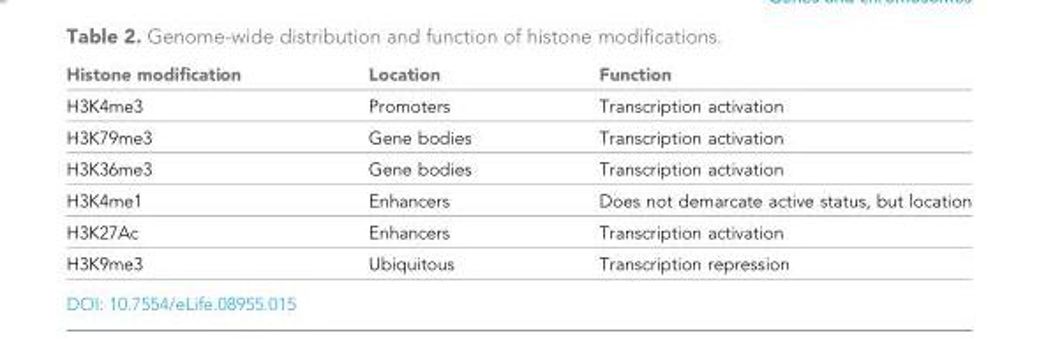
<table><thead><tr><td>Histone modification</td><td>Location</td><td>Function</td></tr></thead><tbody><tr><td>H3K4me3</td><td>Promoters</td><td>Transcription activation</td></tr><tr><td>H3K79me3</td><td>Gene bodies</td><td>Transcription activation</td></tr><tr><td>H3K36me3</td><td>Gene bodies</td><td>Transcription activation</td></tr><tr><td>H3K4me1</td><td>Enhancers</td><td>Does not demarcate active status, but location</td></tr><tr><td>H3K27Ac</td><td>Enhancers</td><td>Transcription activation</td></tr><tr><td>H3K9me3</td><td>Ubiquitous</td><td>Transcription repression</td></tr></tbody></table>